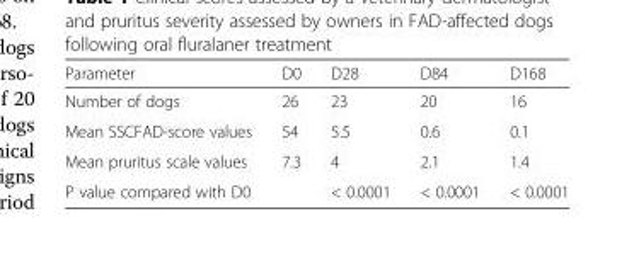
<table><thead><tr><td>Parameter</td><td>D0</td><td>D28</td><td>D84</td><td>D168</td></tr></thead><tbody><tr><td>Number of dogs</td><td>26</td><td>23</td><td>20</td><td>16</td></tr><tr><td>Mean SSCFAD-score values</td><td>54</td><td>5.5</td><td>0.6</td><td>0.1</td></tr><tr><td>Mean pruritus scale values</td><td>7.3</td><td>4</td><td>2.1</td><td>1.4</td></tr><tr><td>P value compared with D0</td><td></td><td>&lt; 0.0001</td><td>&lt; 0.0001</td><td>&lt; 0.0001</td></tr></tbody></table>